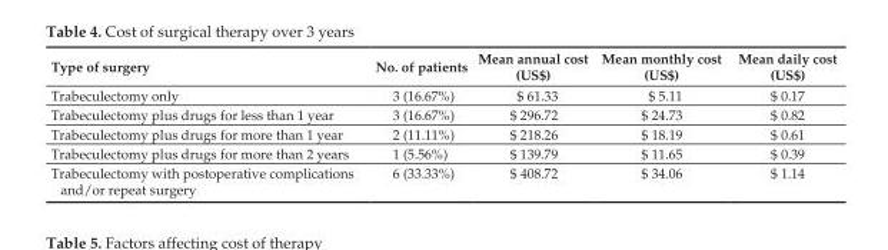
<table><thead><tr><td>Type of surgery</td><td>No. of patients</td><td>Mean annual cost (uS$)</td><td>Mean monthly cost (uS$)</td><td>Mean daily cost (uS$)</td></tr></thead><tbody><tr><td>Trabeculectomy only</td><td>3 (16.67%)</td><td>$ 61.33</td><td>$ 5.11</td><td>$ 0.17</td></tr><tr><td>Trabeculectomy plus drugs for less than 1 year</td><td>3 (16.67%)</td><td>$ 296.72</td><td>$ 24.73</td><td>$ 0.82</td></tr><tr><td>Trabeculectomy plus drugs for more than 1 year</td><td>2 (11.11%)</td><td>$ 218.26</td><td>$ 18.19</td><td>$ 0.61</td></tr><tr><td>Trabeculectomy plus drugs for more than 2 years</td><td>1 (5.56%)</td><td>$ 139.79</td><td>$ 11.65</td><td>$ 0.39</td></tr><tr><td>Trabeculectomy with postoperative complications and/or repeat surgery</td><td>6 (33.33%)</td><td>$ 408.72</td><td>$ 34.06</td><td>$ 1.14</td></tr></tbody></table>